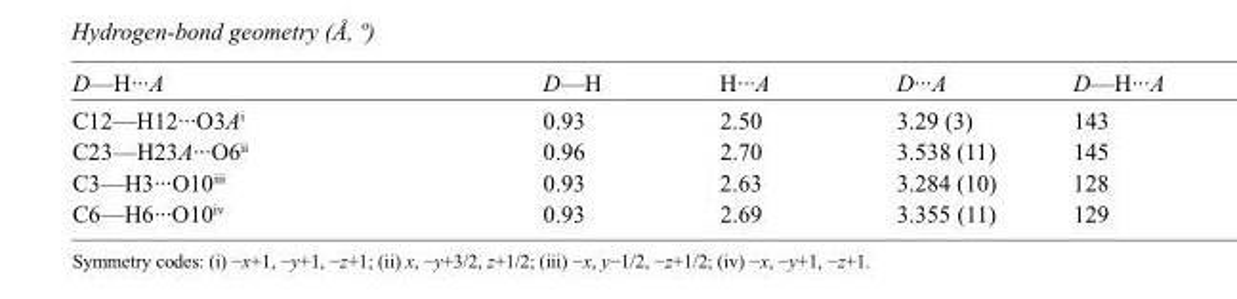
<table><tbody><tr><td>D—H···A</td><td>D—H</td><td>H···A</td><td>D···A</td><td>D—H···A</td></tr><tr><td>C12—H12···O3A<sup>i</sup></td><td>0.93</td><td>2.50</td><td>3.29 (3)</td><td>143</td></tr><tr><td>C23—H23A···O6<sup>ii</sup></td><td>0.96</td><td>2.70</td><td>3.538 (11)</td><td>145</td></tr><tr><td>C3—H3···O10<sup>iii</sup></td><td>0.93</td><td>2.63</td><td>3.284 (10)</td><td>128</td></tr><tr><td>C6—H6···O10<sup>iv</sup></td><td>0.93</td><td>2.69</td><td>3.355 (11)</td><td>129</td></tr></tbody></table>